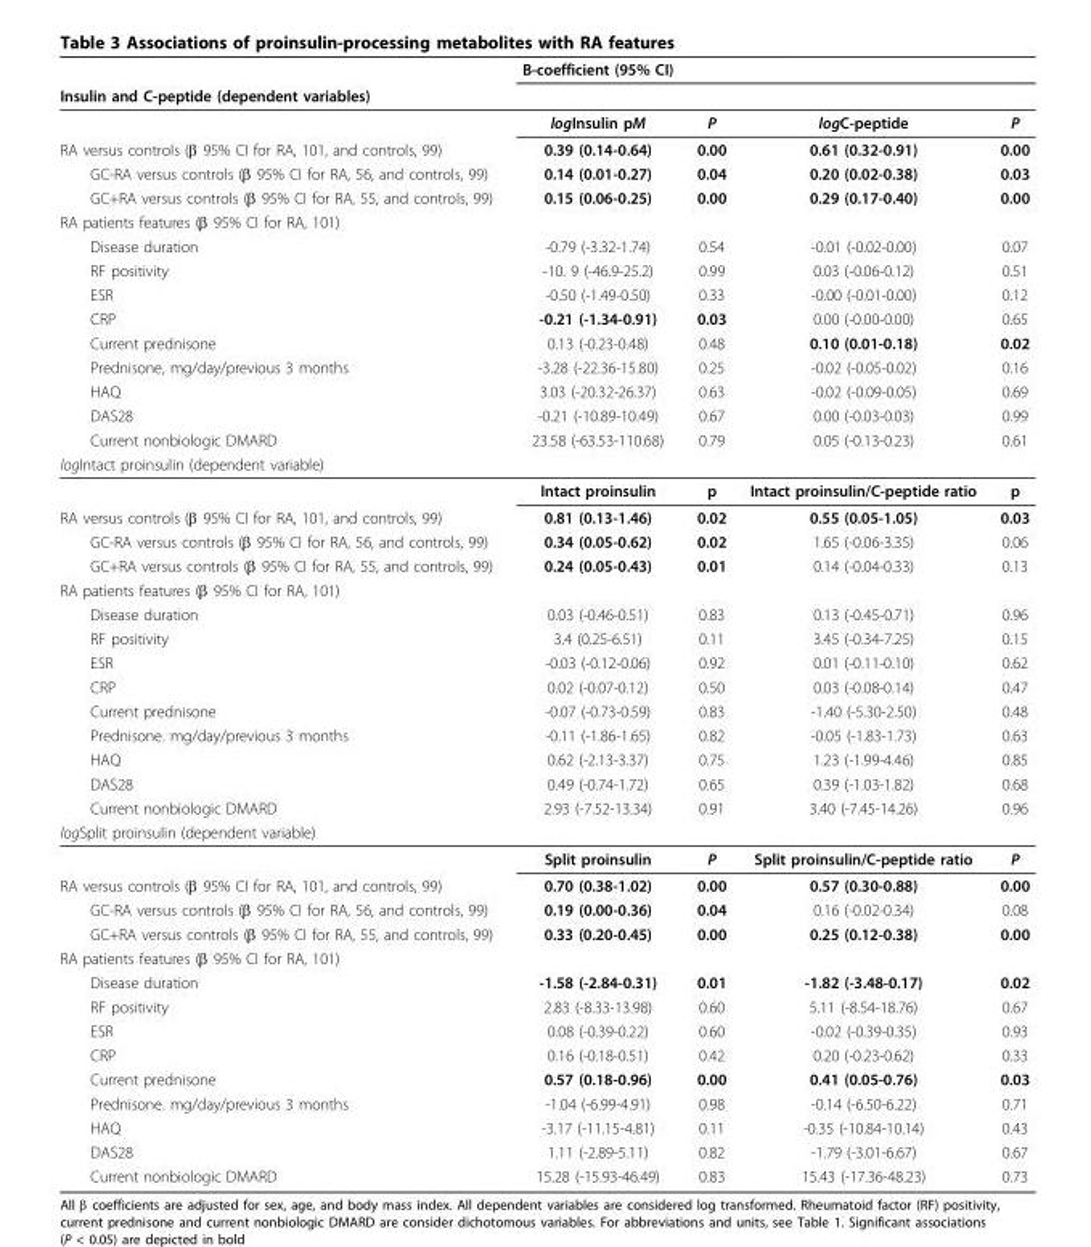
<table><thead><tr><td rowspan="2">Insulin and C-peptide (dependent variables)</td><td rowspan="2">Β-coefficient (95% CI)</td><td rowspan="2"></td><td rowspan="2"></td><td rowspan="2"></td></tr><tr></tr></thead><tbody><tr><td></td><td>logInsulin pM</td><td>P</td><td>logC-peptide</td><td>P</td></tr><tr><td>RA versus controls (β 95% CI for RA, 101, and controls, 99)</td><td>0.39 (0.14-0.64)</td><td>0.00</td><td>0.61 (0.32-0.91)</td><td>0.00</td></tr><tr><td>GC-RA versus controls (β 95% CI for RA, 56, and controls, 99)</td><td>0.14 (0.01-0.27)</td><td>0.04</td><td>0.20 (0.02-0.38)</td><td>0.03</td></tr><tr><td>GC+RA versus controls (β 95% CI for RA, 55, and controls, 99)</td><td>0.15 (0.06-0.25)</td><td>0.00</td><td>0.29 (0.17-0.40)</td><td>0.00</td></tr><tr><td colspan="5">RA patients features (β 95% CI for RA, 101)</td></tr><tr><td>Disease duration</td><td>-0.79 (-3.32-1.74)</td><td>0.54</td><td>-0.01 (-0.02-0.00)</td><td>0.07</td></tr><tr><td>RF positivity</td><td>-10. 9 (-46.9-25.2)</td><td>0.99</td><td>0.03 (-0.06-0.12)</td><td>0.51</td></tr><tr><td>ESR</td><td>-0.50 (-1.49-0.50)</td><td>0.33</td><td>-0.00 (-0.01-0.00)</td><td>0.12</td></tr><tr><td>CRP</td><td>-0.21 (-1.34-0.91)</td><td>0.03</td><td>0.00 (-0.00-0.00)</td><td>0.65</td></tr><tr><td>Current prednisone</td><td>0.13 (-0.23-0.48)</td><td>0.48</td><td>0.10 (0.01-0.18)</td><td>0.02</td></tr><tr><td>Prednisone, mg/day/previous 3 months</td><td>-3.28 (-22.36-15.80)</td><td>0.25</td><td>-0.02 (-0.05-0.02)</td><td>0.16</td></tr><tr><td>HAQ</td><td>3.03 (-20.32-26.37)</td><td>0.63</td><td>-0.02 (-0.09-0.05)</td><td>0.69</td></tr><tr><td>DAS28</td><td>-0.21 (-10.89-10.49)</td><td>0.67</td><td>0.00 (-0.03-0.03)</td><td>0.99</td></tr><tr><td>Current nonbiologic DMARD</td><td>23.58 (-63.53-110.68)</td><td>0.79</td><td>0.05 (-0.13-0.23)</td><td>0.61</td></tr><tr><td colspan="5">logIntact proinsulin (dependent variable)</td></tr><tr><td></td><td>Intact proinsulin</td><td>p</td><td>Intact proinsulin/C-peptide ratio</td><td>p</td></tr><tr><td>RA versus controls (β 95% CI for RA, 101, and controls, 99)</td><td>0.81 (0.13-1.46)</td><td>0.02</td><td>0.55 (0.05-1.05)</td><td>0.03</td></tr><tr><td>GC-RA versus controls (β 95% CI for RA, 56, and controls, 99)</td><td>0.34 (0.05-0.62)</td><td>0.02</td><td>1.65 (-0.06-3.35)</td><td>0.06</td></tr><tr><td>GC+RA versus controls (β 95% CI for RA, 55, and controls, 99)</td><td>0.24 (0.05-0.43)</td><td>0.01</td><td>0.14 (-0.04-0.33)</td><td>0.13</td></tr><tr><td colspan="5">RA patients features (β 95% CI for RA, 101)</td></tr><tr><td>Disease duration</td><td>0.03 (-0.46-0.51)</td><td>0.83</td><td>0.13 (-0.45-0.71)</td><td>0.96</td></tr><tr><td>RF positivity</td><td>3.4 (0.25-6.51)</td><td>0.11</td><td>3.45 (-0.34-7.25)</td><td>0.15</td></tr><tr><td>ESR</td><td>-0.03 (-0.12-0.06)</td><td>0.92</td><td>0.01 (-0.11-0.10)</td><td>0.62</td></tr><tr><td>CRP</td><td>0.02 (-0.07-0.12)</td><td>0.50</td><td>0.03 (-0.08-0.14)</td><td>0.47</td></tr><tr><td>Current prednisone</td><td>-0.07 (-0.73-0.59)</td><td>0.83</td><td>-1.40 (-5.30-2.50)</td><td>0.48</td></tr><tr><td>Prednisone. mg/day/previous 3 months</td><td>-0.11 (-1.86-1.65)</td><td>0.82</td><td>-0.05 (-1.83-1.73)</td><td>0.63</td></tr><tr><td>HAQ</td><td>0.62 (-2.13-3.37)</td><td>0.75</td><td>1.23 (-1.99-4.46)</td><td>0.85</td></tr><tr><td>DAS28</td><td>0.49 (-0.74-1.72)</td><td>0.65</td><td>0.39 (-1.03-1.82)</td><td>0.68</td></tr><tr><td>Current nonbiologic DMARD</td><td>2.93 (-7.52-13.34)</td><td>0.91</td><td>3.40 (-7.45-14.26)</td><td>0.96</td></tr><tr><td colspan="5">logSplit proinsulin (dependent variable)</td></tr><tr><td></td><td>Split proinsulin</td><td>P</td><td>Split proinsulin/C-peptide ratio</td><td>P</td></tr><tr><td>RA versus controls (β 95% CI for RA, 101, and controls, 99)</td><td>0.70 (0.38-1.02)</td><td>0.00</td><td>0.57 (0.30-0.88)</td><td>0.00</td></tr><tr><td>GC-RA versus controls (β 95% CI for RA, 56, and controls, 99)</td><td>0.19 (0.00-0.36)</td><td>0.04</td><td>0.16 (-0.02-0.34)</td><td>0.08</td></tr><tr><td>GC+RA versus controls (β 95% CI for RA, 55, and controls, 99)</td><td>0.33 (0.20-0.45)</td><td>0.00</td><td>0.25 (0.12-0.38)</td><td>0.00</td></tr><tr><td colspan="5">RA patients features (β 95% CI for RA, 101)</td></tr><tr><td>Disease duration</td><td>-1.58 (-2.84-0.31)</td><td>0.01</td><td>-1.82 (-3.48-0.17)</td><td>0.02</td></tr><tr><td>RF positivity</td><td>2.83 (-8.33-13.98)</td><td>0.60</td><td>5.11 (-8.54-18.76)</td><td>0.67</td></tr><tr><td>ESR</td><td>0.08 (-0.39-0.22)</td><td>0.60</td><td>-0.02 (-0.39-0.35)</td><td>0.93</td></tr><tr><td>CRP</td><td>0.16 (-0.18-0.51)</td><td>0.42</td><td>0.20 (-0.23-0.62)</td><td>0.33</td></tr><tr><td>Current prednisone</td><td>0.57 (0.18-0.96)</td><td>0.00</td><td>0.41 (0.05-0.76)</td><td>0.03</td></tr><tr><td>Prednisone. mg/day/previous 3 months</td><td>-1.04 (-6.99-4.91)</td><td>0.98</td><td>-0.14 (-6.50-6.22)</td><td>0.71</td></tr><tr><td>HAQ</td><td>-3.17 (-11.15-4.81)</td><td>0.11</td><td>-0.35 (-10.84-10.14)</td><td>0.43</td></tr><tr><td>DAS28</td><td>1.11 (-2.89-5.11)</td><td>0.82</td><td>-1.79 (-3.01-6.67)</td><td>0.67</td></tr><tr><td>Current nonbiologic DMARD</td><td>15.28 (-15.93-46.49)</td><td>0.83</td><td>15.43 (-17.36-48.23)</td><td>0.73</td></tr></tbody></table>